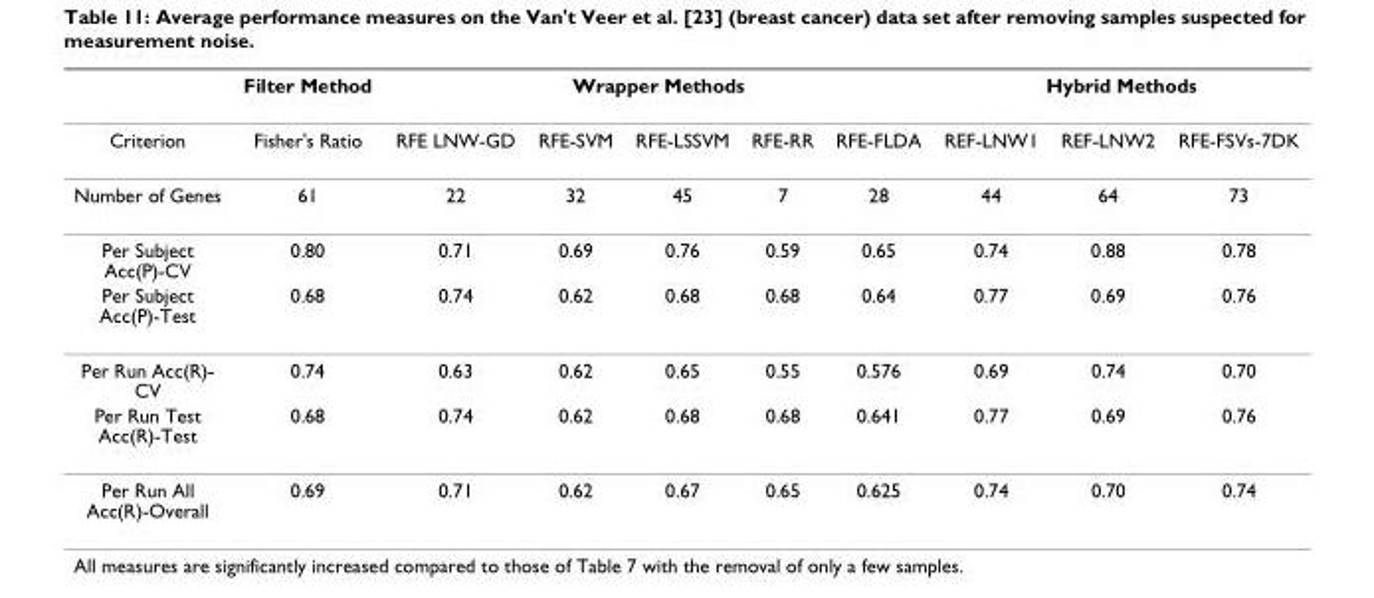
<table><thead><tr><td rowspan="2">Criterion</td><td rowspan="2">Filter Method Fisher&#x27;s Ratio</td><td colspan="5">Wrapper Methods</td><td colspan="3">Hybrid Methods</td></tr><tr><td>RFE LNW-GD</td><td>RFE-SVM</td><td>RFE-LSSVM</td><td>RFE-RR</td><td>RFE-FLDA</td><td>REF-LNW1</td><td>REF-LNW2</td><td>RFE-FSVs-7DK</td></tr></thead><tbody><tr><td>Number of Genes</td><td>61</td><td>22</td><td>32</td><td>45</td><td>7</td><td>28</td><td>44</td><td>64</td><td>73</td></tr><tr><td>Per Subject Acc(P)-CV</td><td>0.80</td><td>0.71</td><td>0.69</td><td>0.76</td><td>0.59</td><td>0.65</td><td>0.74</td><td>0.88</td><td>0.78</td></tr><tr><td>Per Subject Acc(P)-Test</td><td>0.68</td><td>0.74</td><td>0.62</td><td>0.68</td><td>0.68</td><td>0.64</td><td>0.77</td><td>0.69</td><td>0.76</td></tr><tr><td>Per Run Acc(R)- CV</td><td>0.74</td><td>0.63</td><td>0.62</td><td>0.65</td><td>0.55</td><td>0.576</td><td>0.69</td><td>0.74</td><td>0.70</td></tr><tr><td>Per Run Test Acc(R)-Test</td><td>0.68</td><td>0.74</td><td>0.62</td><td>0.68</td><td>0.68</td><td>0.641</td><td>0.77</td><td>0.69</td><td>0.76</td></tr><tr><td>Per Run All Acc(R)-Overall</td><td>0.69</td><td>0.71</td><td>0.62</td><td>0.67</td><td>0.65</td><td>0.625</td><td>0.74</td><td>0.70</td><td>0.74</td></tr></tbody></table>